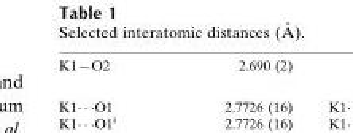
<table><tbody><tr><td>K1—O2</td><td>2.690 (2)</td></tr></tbody></table>